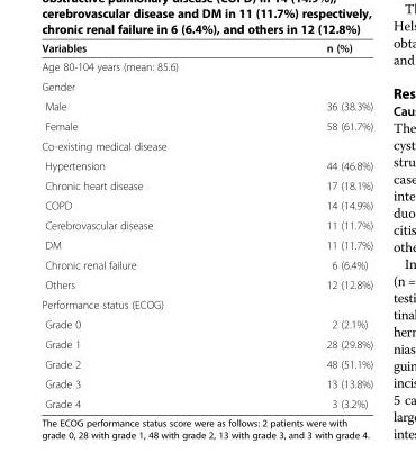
<table><thead><tr><td>Variables</td><td>n (%)</td></tr></thead><tbody><tr><td colspan="2">Age 80-104 years (mean: 85.6)</td></tr><tr><td colspan="2">Gender</td></tr><tr><td>Male</td><td>36 (38.3%)</td></tr><tr><td>Female</td><td>58 (61.7%)</td></tr><tr><td colspan="2">Co-existing medical disease</td></tr><tr><td>Hypertension</td><td>44 (46.8%)</td></tr><tr><td>Chronic heart disease</td><td>17 (18.1%)</td></tr><tr><td>COPD</td><td>14 (14.9%)</td></tr><tr><td>Cerebrovascular disease</td><td>11 (11.7%)</td></tr><tr><td>DM</td><td>11 (11.7%)</td></tr><tr><td>Chronic renal failure</td><td>6 (6.4%)</td></tr><tr><td>Others</td><td>12 (12.8%)</td></tr><tr><td colspan="2">Performance status (ECOG)</td></tr><tr><td>Grade 0</td><td>2 (2.1%)</td></tr><tr><td>Grade 1</td><td>28 (29.8%)</td></tr><tr><td>Grade 2</td><td>48 (51.1%)</td></tr><tr><td>Grade 3</td><td>13 (13.8%)</td></tr><tr><td>Grade 4</td><td>3 (3.2%)</td></tr></tbody></table>